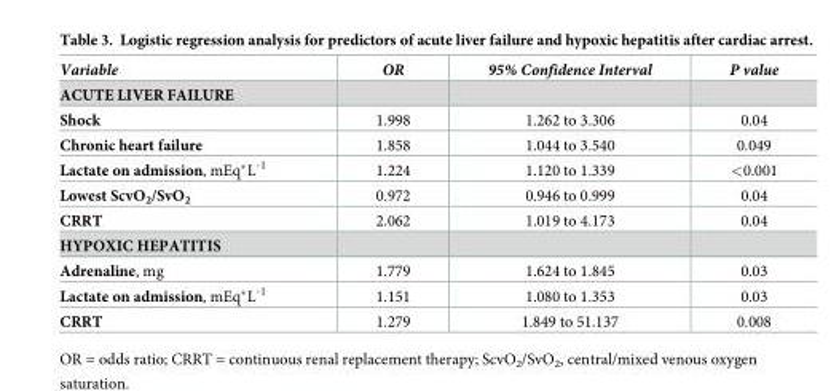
<table><thead><tr><td>Variable</td><td>OR</td><td>95% Confidence Interval</td><td>P value</td></tr></thead><tbody><tr><td colspan="4">ACUTE LIVER FAILURE</td></tr><tr><td>Shock</td><td>1.998</td><td>1.262 to 3.306</td><td>0.04</td></tr><tr><td>Chronic heart failure</td><td>1.858</td><td>1.044 to 3.540</td><td>0.049</td></tr><tr><td>Lactate on admission, mEq*L<sup>-1</sup></td><td>1.224</td><td>1.120 to 1.339</td><td>&lt;0.001</td></tr><tr><td>Lowest ScvO<sub>2</sub>/SvO<sub>2</sub></td><td>0.972</td><td>0.946 to 0.999</td><td>0.04</td></tr><tr><td>CRRT</td><td>2.062</td><td>1.019 to 4.173</td><td>0.04</td></tr><tr><td colspan="4">HYPOXIC HEPATITIS</td></tr><tr><td>Adrenaline, mg</td><td>1.779</td><td>1.624 to 1.845</td><td>0.03</td></tr><tr><td>Lactate on admission, mEq*L<sup>-1</sup></td><td>1.151</td><td>1.080 to 1.353</td><td>0.03</td></tr><tr><td>CRRT</td><td>1.279</td><td>1.849 to 51.137</td><td>0.008</td></tr></tbody></table>